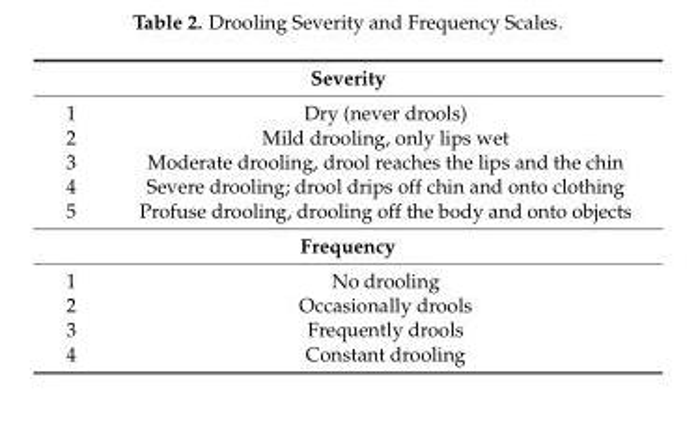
<table><tbody><tr><td colspan="2">Severity</td></tr><tr><td>1</td><td>Dry (never drools)</td></tr><tr><td>2</td><td>Mild drooling, only lips wet</td></tr><tr><td>3</td><td>Moderate drooling, drool reaches the lips and the chin</td></tr><tr><td>4</td><td>Severe drooling; drool drips off chin and onto clothing</td></tr><tr><td>5</td><td>Profuse drooling, drooling off the body and onto objects</td></tr><tr><td colspan="2">Frequency</td></tr><tr><td>1</td><td>No drooling</td></tr><tr><td>2</td><td>Occasionally drools</td></tr><tr><td>3</td><td>Frequently drools</td></tr><tr><td>4</td><td>Constant drooling</td></tr></tbody></table>